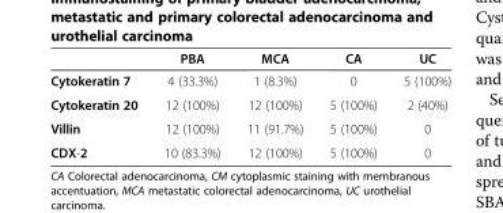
<table><thead><tr><td></td><td>PBA</td><td>MCA</td><td>CA</td><td>UC</td></tr></thead><tbody><tr><td>Cytokeratin 7</td><td>4 (33.3%)</td><td>1 (8.3%)</td><td>0</td><td>5 (100%)</td></tr><tr><td>Cytokeratin 20</td><td>12 (100%)</td><td>12 (100%)</td><td>5 (100%)</td><td>2 (40%)</td></tr><tr><td>Villin</td><td>12 (100%)</td><td>11 (91.7%)</td><td>5 (100%)</td><td>0</td></tr><tr><td>CDX-2</td><td>10 (83.3%)</td><td>12 (100%)</td><td>5 (100%)</td><td>0</td></tr></tbody></table>